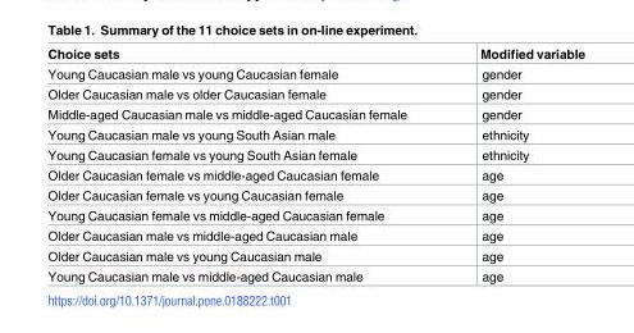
<table><thead><tr><td>Choice sets</td><td>Modified variable</td></tr></thead><tbody><tr><td>Young Caucasian male vs young Caucasian female</td><td>gender</td></tr><tr><td>Older Caucasian male vs older Caucasian female</td><td>gender</td></tr><tr><td>Middle-aged Caucasian male vs middle-aged Caucasian female</td><td>gender</td></tr><tr><td>Young Caucasian male vs young South Asian male</td><td>ethnicity</td></tr><tr><td>Young Caucasian female vs young South Asian female</td><td>ethnicity</td></tr><tr><td>Older Caucasian female vs middle-aged Caucasian female</td><td>age</td></tr><tr><td>Older Caucasian female vs young Caucasian female</td><td>age</td></tr><tr><td>Young Caucasian female vs middle-aged Caucasian female</td><td>age</td></tr><tr><td>Older Caucasian male vs middle-aged Caucasian male</td><td>age</td></tr><tr><td>Older Caucasian male vs young Caucasian male</td><td>age</td></tr><tr><td>Young Caucasian male vs middle-aged Caucasian male</td><td>age</td></tr></tbody></table>